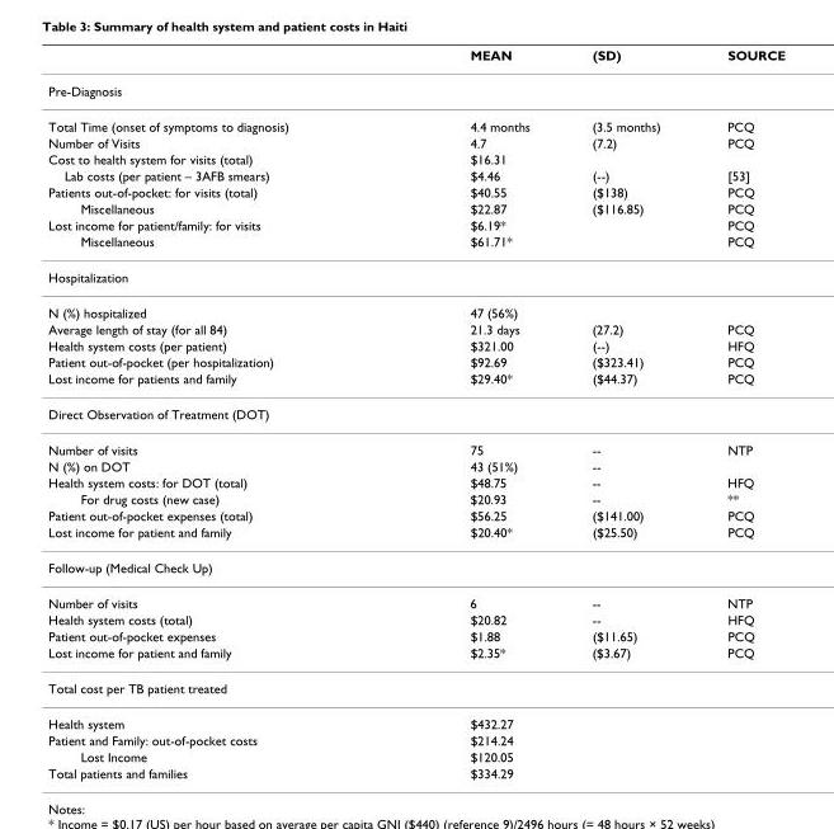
<table><thead><tr><td></td><td>MEAN</td><td>(SD)</td><td>SOURCE</td></tr></thead><tbody><tr><td colspan="4">Pre-Diagnosis</td></tr><tr><td>Total Time (onset of symptoms to diagnosis)</td><td>4.4 months</td><td>(3.5 months)</td><td>PCQ</td></tr><tr><td>Number of Visits</td><td>4.7</td><td>(7.2)</td><td>PCQ</td></tr><tr><td>Cost to health system for visits (total)</td><td>$16.31</td><td></td><td></td></tr><tr><td>Lab costs (per patient – 3AFB smears)</td><td>$4.46</td><td>(--)</td><td>[53]</td></tr><tr><td>Patients out-of-pocket: for visits (total)</td><td>$40.55</td><td>($138)</td><td>PCQ</td></tr><tr><td>Miscellaneous</td><td>$22.87</td><td>($116.85)</td><td>PCQ</td></tr><tr><td>Lost income for patient/family: for visits</td><td>$6.19*</td><td></td><td>PCQ</td></tr><tr><td>Miscellaneous</td><td>$61.71*</td><td></td><td>PCQ</td></tr><tr><td colspan="4">Hospitalization</td></tr><tr><td>N (%) hospitalized</td><td>47 (56%)</td><td></td><td></td></tr><tr><td>Average length of stay (for all 84)</td><td>21.3 days</td><td>(27.2)</td><td>PCQ</td></tr><tr><td>Health system costs (per patient)</td><td>$321.00</td><td>(--)</td><td>HFQ</td></tr><tr><td>Patient out-of-pocket (per hospitalization)</td><td>$92.69</td><td>($323.41)</td><td>PCQ</td></tr><tr><td>Lost income for patients and family</td><td>$29.40*</td><td>($44.37)</td><td>PCQ</td></tr><tr><td colspan="4">Direct Observation of Treatment (DOT)</td></tr><tr><td>Number of visits</td><td>75</td><td>--</td><td>NTP</td></tr><tr><td>N (%) on DOT</td><td>43 (51%)</td><td>--</td><td></td></tr><tr><td>Health system costs: for DOT (total)</td><td>$48.75</td><td>--</td><td>HFQ</td></tr><tr><td>For drug costs (new case)</td><td>$20.93</td><td>--</td><td>**</td></tr><tr><td>Patient out-of-pocket expenses (total)</td><td>$56.25</td><td>($141.00)</td><td>PCQ</td></tr><tr><td>Lost income for patient and family</td><td>$20.40*</td><td>($25.50)</td><td>PCQ</td></tr><tr><td colspan="4">Follow-up (Medical Check Up)</td></tr><tr><td>Number of visits</td><td>6</td><td>--</td><td>NTP</td></tr><tr><td>Health system costs (total)</td><td>$20.82</td><td>--</td><td>HFQ</td></tr><tr><td>Patient out-of-pocket expenses</td><td>$1.88</td><td>($11.65)</td><td>PCQ</td></tr><tr><td>Lost income for patient and family</td><td>$2.35*</td><td>($3.67)</td><td>PCQ</td></tr><tr><td colspan="4">Total cost per TB patient treated</td></tr><tr><td>Health system</td><td>$432.27</td><td></td><td></td></tr><tr><td>Patient and Family: out-of-pocket costs</td><td>$214.24</td><td></td><td></td></tr><tr><td>Lost Income</td><td>$120.05</td><td></td><td></td></tr><tr><td>Total patients and families</td><td>$334.29</td><td></td><td></td></tr></tbody></table>